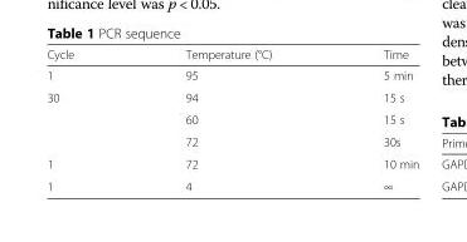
<table><thead><tr><td>Cycle</td><td>Temperature (°C)</td><td>Time</td></tr></thead><tbody><tr><td>1</td><td>95</td><td>5 min</td></tr><tr><td rowspan="3">30</td><td>94</td><td>15 s</td></tr><tr><td>60</td><td>15 s</td></tr><tr><td>72</td><td>30s</td></tr><tr><td>1</td><td>72</td><td>10 min</td></tr><tr><td>1</td><td>4</td><td>∞</td></tr></tbody></table>